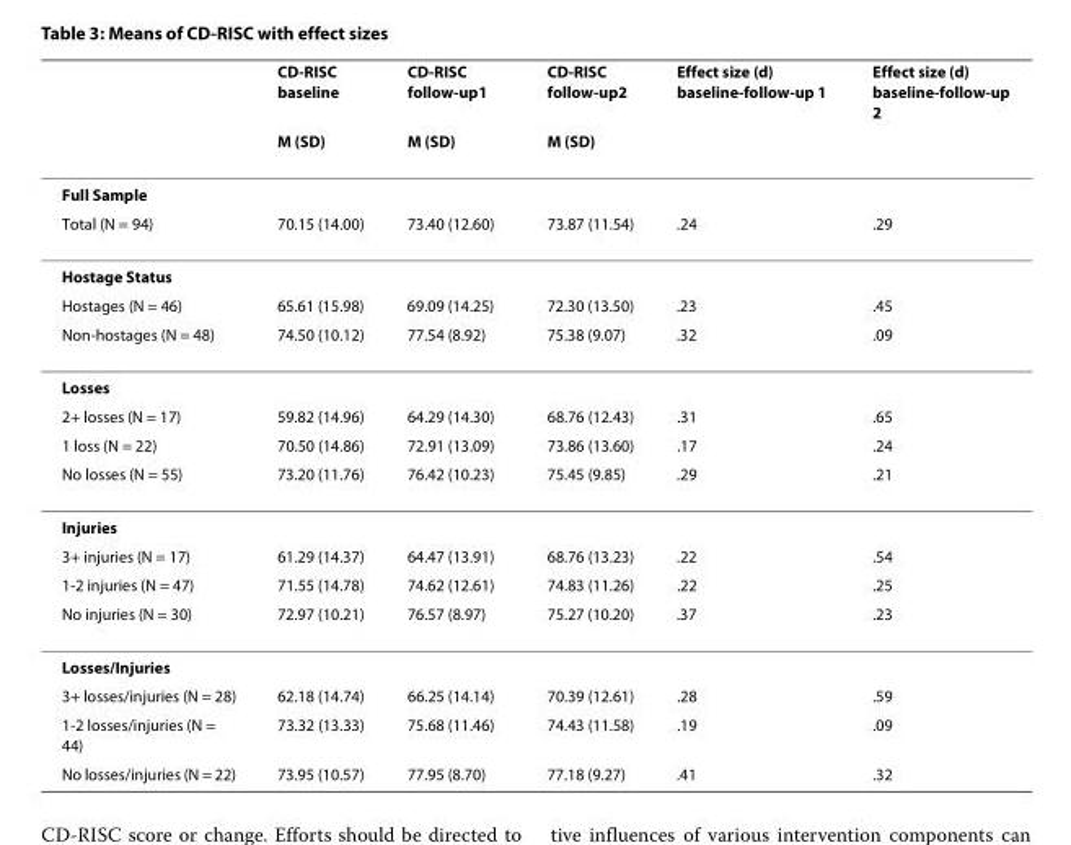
<table><thead><tr><td rowspan="2"></td><td rowspan="2">CD-RISC baseline M (SD)</td><td rowspan="2">CD-RISC follow-up1 M (SD)</td><td rowspan="2">CD-RISC follow-up2 M (SD)</td><td rowspan="2">Effect size (d) baseline-follow-up 1</td><td rowspan="2">Effect size (d) baseline-follow-up 2</td></tr><tr></tr></thead><tbody><tr><td colspan="6">Full Sample</td></tr><tr><td>Total (N = 94)</td><td>70.15 (14.00)</td><td>73.40 (12.60)</td><td>73.87 (11.54)</td><td>.24</td><td>.29</td></tr><tr><td colspan="6">Hostage Status</td></tr><tr><td>Hostages (N = 46)</td><td>65.61 (15.98)</td><td>69.09 (14.25)</td><td>72.30 (13.50)</td><td>.23</td><td>.45</td></tr><tr><td>Non-hostages (N = 48)</td><td>74.50 (10.12)</td><td>77.54 (8.92)</td><td>75.38 (9.07)</td><td>.32</td><td>.09</td></tr><tr><td colspan="6">Losses</td></tr><tr><td>2+ losses (N = 17)</td><td>59.82 (14.96)</td><td>64.29 (14.30)</td><td>68.76 (12.43)</td><td>.31</td><td>.65</td></tr><tr><td>1 loss (N = 22)</td><td>70.50 (14.86)</td><td>72.91 (13.09)</td><td>73.86 (13.60)</td><td>.17</td><td>.24</td></tr><tr><td>No losses (N = 55)</td><td>73.20 (11.76)</td><td>76.42 (10.23)</td><td>75.45 (9.85)</td><td>.29</td><td>.21</td></tr><tr><td colspan="6">Injuries</td></tr><tr><td>3+ injuries (N = 17)</td><td>61.29 (14.37)</td><td>64.47 (13.91)</td><td>68.76 (13.23)</td><td>.22</td><td>.54</td></tr><tr><td>1-2 injuries (N = 47)</td><td>71.55 (14.78)</td><td>74.62 (12.61)</td><td>74.83 (11.26)</td><td>.22</td><td>.25</td></tr><tr><td>No injuries (N = 30)</td><td>72.97 (10.21)</td><td>76.57 (8.97)</td><td>75.27 (10.20)</td><td>.37</td><td>.23</td></tr><tr><td colspan="6">Losses/Injuries</td></tr><tr><td>3+ losses/injuries (N = 28)</td><td>62.18 (14.74)</td><td>66.25 (14.14)</td><td>70.39 (12.61)</td><td>.28</td><td>.59</td></tr><tr><td>1-2 losses/injuries (N = 44)</td><td>73.32 (13.33)</td><td>75.68 (11.46)</td><td>74.43 (11.58)</td><td>.19</td><td>.09</td></tr><tr><td>No losses/injuries (N = 22)</td><td>73.95 (10.57)</td><td>77.95 (8.70)</td><td>77.18 (9.27)</td><td>.41</td><td>.32</td></tr></tbody></table>